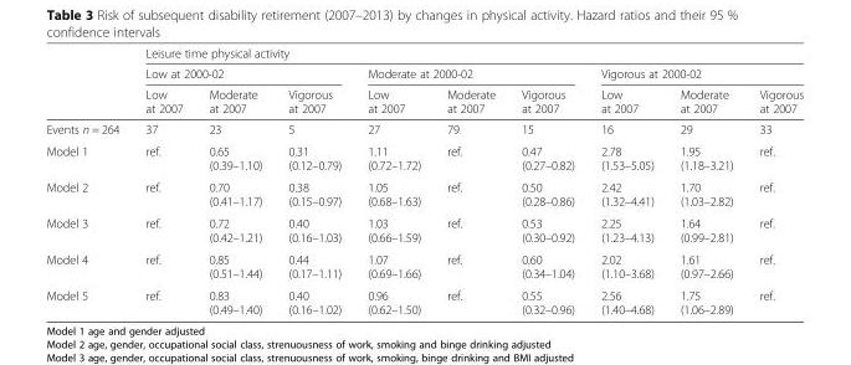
<table><thead><tr><td rowspan="3"></td><td colspan="9">Leisure time physical activity</td></tr><tr><td colspan="3">Low at 2000-02</td><td colspan="3">Moderate at 2000-02</td><td colspan="3">Vigorous at 2000-02</td></tr><tr><td>Low at 2007</td><td>Moderate at 2007</td><td>Vigorous at 2007</td><td>Low at 2007</td><td>Moderate at 2007</td><td>Vigorous at 2007</td><td>Low at 2007</td><td>Moderate at 2007</td><td>Vigorous at 2007</td></tr></thead><tbody><tr><td>Events n = 264</td><td>37</td><td>23</td><td>5</td><td>27</td><td>79</td><td>15</td><td>16</td><td>29</td><td>33</td></tr><tr><td>Model 1</td><td>ref.</td><td>0.65 (0.39–1.10)</td><td>0.31 (0.12–0.79)</td><td>1.11 (0.72–1.72)</td><td>ref.</td><td>0.47 (0.27–0.82)</td><td>2.78 (1.53–5.05)</td><td>1.95 (1.18–3.21)</td><td>ref.</td></tr><tr><td>Model 2</td><td>ref.</td><td>0.70 (0.41–1.17)</td><td>0.38 (0.15–0.97)</td><td>1.05 (0.68–1.63)</td><td>ref.</td><td>0.50 (0.28–0.86)</td><td>2.42 (1.32–4.41)</td><td>1.70 (1.03–2.82)</td><td>ref.</td></tr><tr><td>Model 3</td><td>ref.</td><td>0.72 (0.42–1.21)</td><td>0.40 (0.16–1.03)</td><td>1.03 (0.66–1.59)</td><td>ref.</td><td>0.53 (0.30–0.92)</td><td>2.25 (1.23–4.13)</td><td>1.64 (0.99–2.81)</td><td>ref.</td></tr><tr><td>Model 4</td><td>ref.</td><td>0.85 (0.51–1.44)</td><td>0.44 (0.17–1.11)</td><td>1.07 (0.69–1.66)</td><td>ref.</td><td>0.60 (0.34–1.04)</td><td>2.02 (1.10–3.68)</td><td>1.61 (0.97–2.66)</td><td>ref.</td></tr><tr><td>Model 5</td><td>ref.</td><td>0.83 (0.49–1.40)</td><td>0.40 (0.16–1.02)</td><td>0.96 (0.62–1.50)</td><td>ref.</td><td>0.55 (0.32–0.96)</td><td>2.56 (1.40–4.68)</td><td>1.75 (1.06–2.89)</td><td>ref.</td></tr></tbody></table>